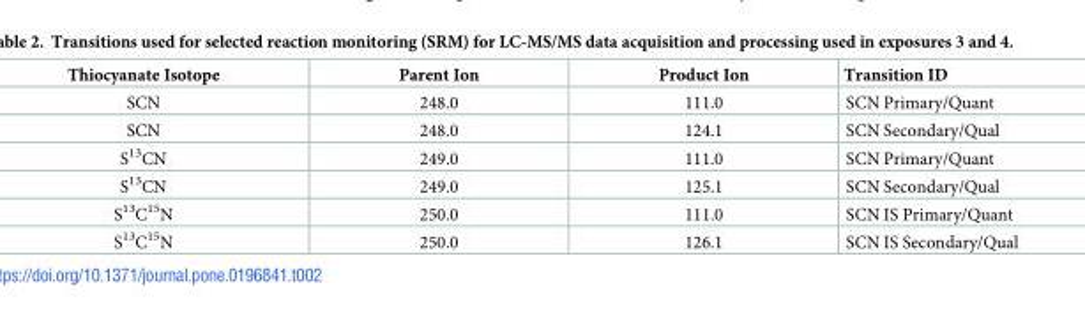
<table><thead><tr><td>Thiocyanate Isotope</td><td>Parent Ion</td><td>Product Ion</td><td>Transition ID</td></tr></thead><tbody><tr><td>SCN</td><td>248.0</td><td>111.0</td><td>SCN Primary/Quant</td></tr><tr><td>SCN</td><td>248.0</td><td>124.1</td><td>SCN Secondary/Qual</td></tr><tr><td>S<sup>13</sup>CN</td><td>249.0</td><td>111.0</td><td>SCN Primary/Quant</td></tr><tr><td>S<sup>13</sup>CN</td><td>249.0</td><td>125.1</td><td>SCN Secondary/Qual</td></tr><tr><td>S<sup>13</sup>C<sup>15</sup>N</td><td>250.0</td><td>111.0</td><td>SCN IS Primary/Quant</td></tr><tr><td>S<sup>13</sup>C<sup>15</sup>N</td><td>250.0</td><td>126.1</td><td>SCN IS Secondary/Qual</td></tr></tbody></table>